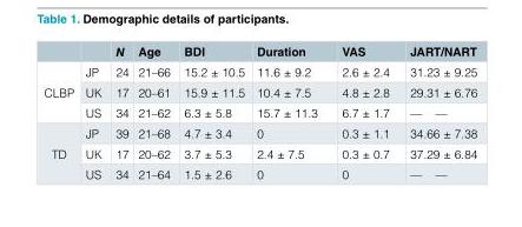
<table><thead><tr><td></td><td></td><td>N</td><td>Age</td><td>BDI</td><td>Duration</td><td>VAS</td><td>JART/NART</td></tr></thead><tbody><tr><td rowspan="3">CLBP</td><td>JP</td><td>24</td><td>21–66</td><td>15.2 ± 10.5</td><td>11.6 ± 9.2</td><td>2.6 ± 2.4</td><td>31.23 ± 9.25</td></tr><tr><td>UK</td><td>17</td><td>20–61</td><td>15.9 ± 11.5</td><td>10.4 ± 7.5</td><td>4.8 ± 2.8</td><td>29.31 ± 6.76</td></tr><tr><td>US</td><td>34</td><td>21–62</td><td>6.3 ± 5.8</td><td>15.7 ± 11.3</td><td>6.7 ± 1.7</td><td>— —</td></tr><tr><td rowspan="3">TD</td><td>JP</td><td>39</td><td>21–68</td><td>4.7 ± 3.4</td><td>0</td><td>0.3 ± 1.1</td><td>34.66 ± 7.38</td></tr><tr><td>UK</td><td>17</td><td>20–62</td><td>3.7 ± 5.3</td><td>2.4 ± 7.5</td><td>0.3 ± 0.7</td><td>37.29 ± 6.84</td></tr><tr><td>US</td><td>34</td><td>21–64</td><td>1.5 ± 2.6</td><td>0</td><td>0</td><td>— —</td></tr></tbody></table>